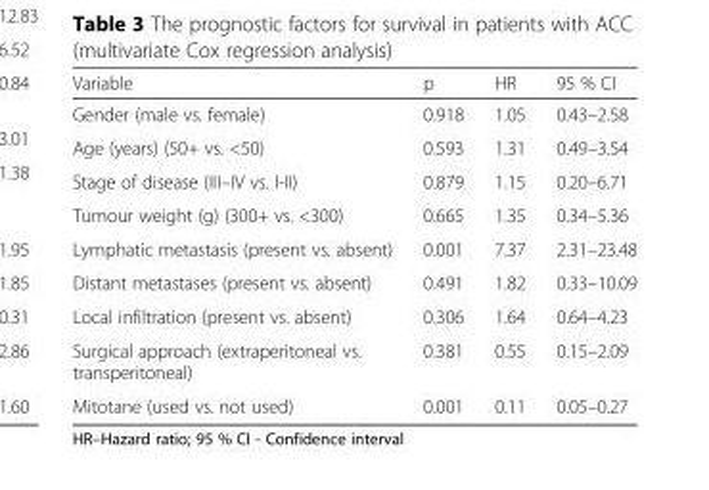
<table><thead><tr><td>Variable</td><td>p</td><td>HR</td><td>95 % CI</td></tr></thead><tbody><tr><td>Gender (male vs. female)</td><td>0.918</td><td>1.05</td><td>0.43–2.58</td></tr><tr><td>Age (years) (50+ vs. &lt;50)</td><td>0.593</td><td>1.31</td><td>0.49–3.54</td></tr><tr><td>Stage of disease (III–IV vs. I-II)</td><td>0.879</td><td>1.15</td><td>0.20–6.71</td></tr><tr><td>Tumour weight (g) (300+ vs. &lt;300)</td><td>0.665</td><td>1.35</td><td>0.34–5.36</td></tr><tr><td>Lymphatic metastasis (present vs. absent)</td><td>0.001</td><td>7.37</td><td>2.31–23.48</td></tr><tr><td>Distant metastases (present vs. absent)</td><td>0.491</td><td>1.82</td><td>0.33–10.09</td></tr><tr><td>Local infiltration (present vs. absent)</td><td>0.306</td><td>1.64</td><td>0.64–4.23</td></tr><tr><td>Surgical approach (extraperitoneal vs. transperitoneal)</td><td>0.381</td><td>0.55</td><td>0.15–2.09</td></tr><tr><td>Mitotane (used vs. not used)</td><td>0.001</td><td>0.11</td><td>0.05–0.27</td></tr></tbody></table>